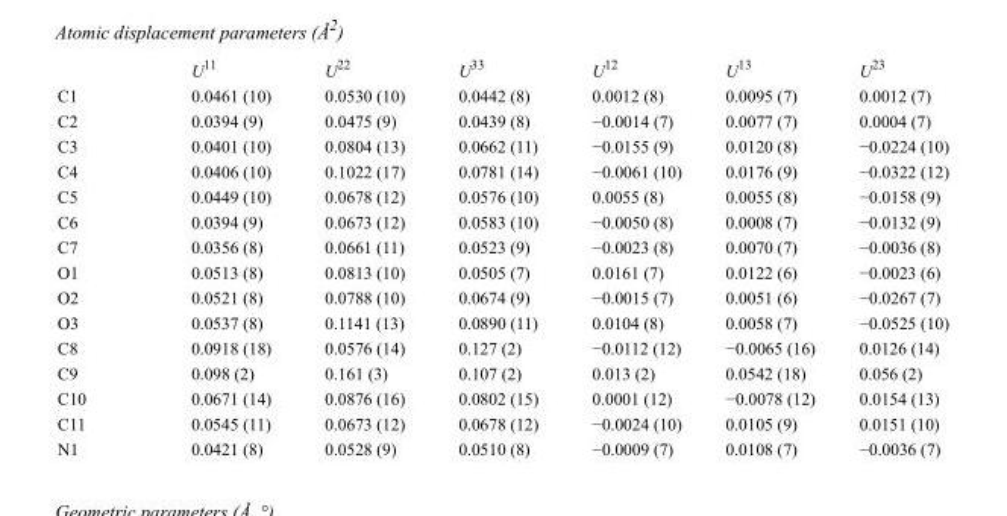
<table><thead><tr><td></td><td>U<sup>11</sup></td><td>U<sup>22</sup></td><td>U<sup>33</sup></td><td>U<sup>12</sup></td><td>U<sup>13</sup></td><td>U<sup>23</sup></td></tr></thead><tbody><tr><td>C1</td><td>0.0461 (10)</td><td>0.0530 (10)</td><td>0.0442 (8)</td><td>0.0012 (8)</td><td>0.0095 (7)</td><td>0.0012 (7)</td></tr><tr><td>C2</td><td>0.0394 (9)</td><td>0.0475 (9)</td><td>0.0439 (8)</td><td>−0.0014 (7)</td><td>0.0077 (7)</td><td>0.0004 (7)</td></tr><tr><td>C3</td><td>0.0401 (10)</td><td>0.0804 (13)</td><td>0.0662 (11)</td><td>−0.0155 (9)</td><td>0.0120 (8)</td><td>−0.0224 (10)</td></tr><tr><td>C4</td><td>0.0406 (10)</td><td>0.1022 (17)</td><td>0.0781 (14)</td><td>−0.0061 (10)</td><td>0.0176 (9)</td><td>−0.0322 (12)</td></tr><tr><td>C5</td><td>0.0449 (10)</td><td>0.0678 (12)</td><td>0.0576 (10)</td><td>0.0055 (8)</td><td>0.0055 (8)</td><td>−0.0158 (9)</td></tr><tr><td>C6</td><td>0.0394 (9)</td><td>0.0673 (12)</td><td>0.0583 (10)</td><td>−0.0050 (8)</td><td>0.0008 (7)</td><td>−0.0132 (9)</td></tr><tr><td>C7</td><td>0.0356 (8)</td><td>0.0661 (11)</td><td>0.0523 (9)</td><td>−0.0023 (8)</td><td>0.0070 (7)</td><td>−0.0036 (8)</td></tr><tr><td>O1</td><td>0.0513 (8)</td><td>0.0813 (10)</td><td>0.0505 (7)</td><td>0.0161 (7)</td><td>0.0122 (6)</td><td>−0.0023 (6)</td></tr><tr><td>O2</td><td>0.0521 (8)</td><td>0.0788 (10)</td><td>0.0674 (9)</td><td>−0.0015 (7)</td><td>0.0051 (6)</td><td>−0.0267 (7)</td></tr><tr><td>O3</td><td>0.0537 (8)</td><td>0.1141 (13)</td><td>0.0890 (11)</td><td>0.0104 (8)</td><td>0.0058 (7)</td><td>−0.0525 (10)</td></tr><tr><td>C8</td><td>0.0918 (18)</td><td>0.0576 (14)</td><td>0.127 (2)</td><td>−0.0112 (12)</td><td>−0.0065 (16)</td><td>0.0126 (14)</td></tr><tr><td>C9</td><td>0.098 (2)</td><td>0.161 (3)</td><td>0.107 (2)</td><td>0.013 (2)</td><td>0.0542 (18)</td><td>0.056 (2)</td></tr><tr><td>C10</td><td>0.0671 (14)</td><td>0.0876 (16)</td><td>0.0802 (15)</td><td>0.0001 (12)</td><td>−0.0078 (12)</td><td>0.0154 (13)</td></tr><tr><td>C11</td><td>0.0545 (11)</td><td>0.0673 (12)</td><td>0.0678 (12)</td><td>−0.0024 (10)</td><td>0.0105 (9)</td><td>0.0151 (10)</td></tr><tr><td>N1</td><td>0.0421 (8)</td><td>0.0528 (9)</td><td>0.0510 (8)</td><td>−0.0009 (7)</td><td>0.0108 (7)</td><td>−0.0036 (7)</td></tr></tbody></table>